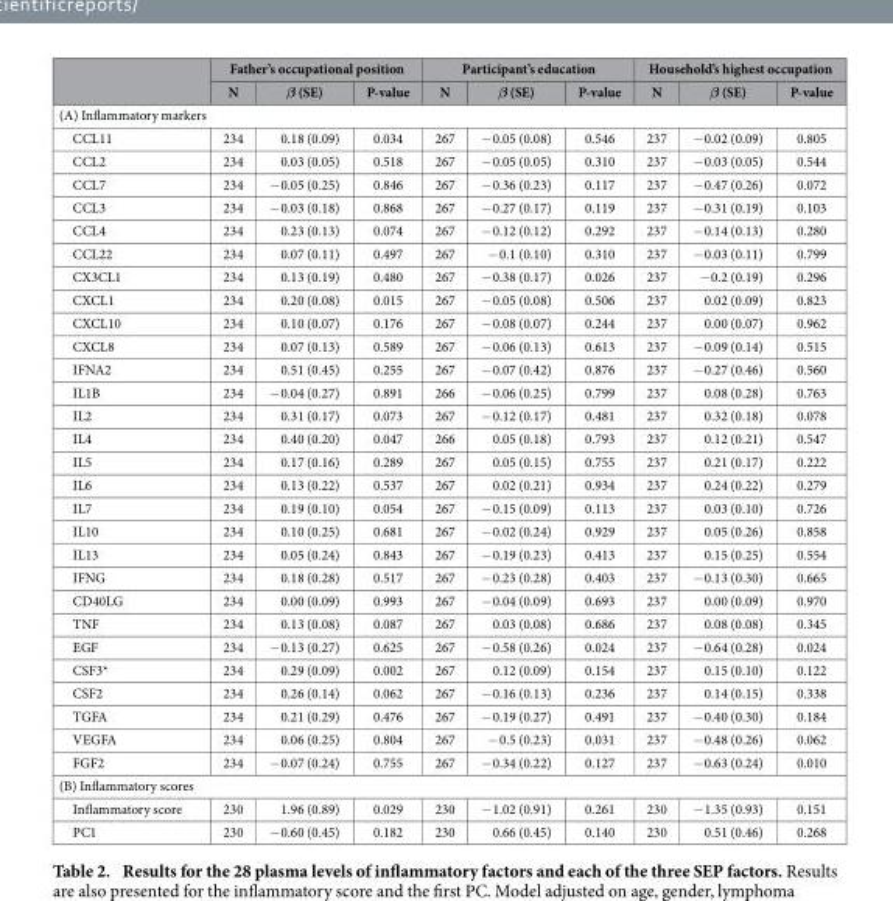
<table><thead><tr><td rowspan="2"></td><td colspan="3">Father’s occupational position</td><td colspan="3">Participant’s education</td><td colspan="3">Household’s highest occupation</td></tr><tr><td>N</td><td>β (SE)</td><td>P-value</td><td>N</td><td>β (SE)</td><td>P-value</td><td>N</td><td>β (SE)</td><td>P-value</td></tr></thead><tbody><tr><td colspan="10">(A) Inflammatory markers</td></tr><tr><td>CCL11</td><td>234</td><td>0.18 (0.09)</td><td>0.034</td><td>267</td><td>− 0.05 (0.08)</td><td>0.546</td><td>237</td><td>− 0.02 (0.09)</td><td>0.805</td></tr><tr><td>CCL2</td><td>234</td><td>0.03 (0.05)</td><td>0.518</td><td>267</td><td>− 0.05 (0.05)</td><td>0.310</td><td>237</td><td>− 0.03 (0.05)</td><td>0.544</td></tr><tr><td>CCL7</td><td>234</td><td>− 0.05 (0.25)</td><td>0.846</td><td>267</td><td>− 0.36 (0.23)</td><td>0.117</td><td>237</td><td>− 0.47 (0.26)</td><td>0.072</td></tr><tr><td>CCL3</td><td>234</td><td>− 0.03 (0.18)</td><td>0.868</td><td>267</td><td>− 0.27 (0.17)</td><td>0.119</td><td>237</td><td>− 0.31 (0.19)</td><td>0.103</td></tr><tr><td>CCL4</td><td>234</td><td>0.23 (0.13)</td><td>0.074</td><td>267</td><td>− 0.12 (0.12)</td><td>0.292</td><td>237</td><td>− 0.14 (0.13)</td><td>0.280</td></tr><tr><td>CCL22</td><td>234</td><td>0.07 (0.11)</td><td>0.497</td><td>267</td><td>− 0.1 (0.10)</td><td>0.310</td><td>237</td><td>− 0.03 (0.11)</td><td>0.799</td></tr><tr><td>CX3CL1</td><td>234</td><td>0.13 (0.19)</td><td>0.480</td><td>267</td><td>− 0.38 (0.17)</td><td>0.026</td><td>237</td><td>− 0.2 (0.19)</td><td>0.296</td></tr><tr><td>CXCL1</td><td>234</td><td>0.20 (0.08)</td><td>0.015</td><td>267</td><td>− 0.05 (0.08)</td><td>0.506</td><td>237</td><td>0.02 (0.09)</td><td>0.823</td></tr><tr><td>CXCL10</td><td>234</td><td>0.10 (0.07)</td><td>0.176</td><td>267</td><td>− 0.08 (0.07)</td><td>0.244</td><td>237</td><td>0.00 (0.07)</td><td>0.962</td></tr><tr><td>CXCL8</td><td>234</td><td>0.07 (0.13)</td><td>0.589</td><td>267</td><td>− 0.06 (0.13)</td><td>0.613</td><td>237</td><td>− 0.09 (0.14)</td><td>0.515</td></tr><tr><td>IFNA2</td><td>234</td><td>0.51 (0.45)</td><td>0.255</td><td>267</td><td>− 0.07 (0.42)</td><td>0.876</td><td>237</td><td>− 0.27 (0.46)</td><td>0.560</td></tr><tr><td>IL1B</td><td>234</td><td>− 0.04 (0.27)</td><td>0.891</td><td>266</td><td>− 0.06 (0.25)</td><td>0.799</td><td>237</td><td>0.08 (0.28)</td><td>0.763</td></tr><tr><td>IL2</td><td>234</td><td>0.31 (0.17)</td><td>0.073</td><td>267</td><td>− 0.12 (0.17)</td><td>0.481</td><td>237</td><td>0.32 (0.18)</td><td>0.078</td></tr><tr><td>IL4</td><td>234</td><td>0.40 (0.20)</td><td>0.047</td><td>266</td><td>0.05 (0.18)</td><td>0.793</td><td>237</td><td>0.12 (0.21)</td><td>0.547</td></tr><tr><td>IL5</td><td>234</td><td>0.17 (0.16)</td><td>0.289</td><td>267</td><td>0.05 (0.15)</td><td>0.755</td><td>237</td><td>0.21 (0.17)</td><td>0.222</td></tr><tr><td>IL6</td><td>234</td><td>0.13 (0.22)</td><td>0.537</td><td>267</td><td>0.02 (0.21)</td><td>0.934</td><td>237</td><td>0.24 (0.22)</td><td>0.279</td></tr><tr><td>IL7</td><td>234</td><td>0.19 (0.10)</td><td>0.054</td><td>267</td><td>− 0.15 (0.09)</td><td>0.113</td><td>237</td><td>0.03 (0.10)</td><td>0.726</td></tr><tr><td>IL10</td><td>234</td><td>0.10 (0.25)</td><td>0.681</td><td>267</td><td>− 0.02 (0.24)</td><td>0.929</td><td>237</td><td>0.05 (0.26)</td><td>0.858</td></tr><tr><td>IL13</td><td>234</td><td>0.05 (0.24)</td><td>0.843</td><td>267</td><td>− 0.19 (0.23)</td><td>0.413</td><td>237</td><td>0.15 (0.25)</td><td>0.554</td></tr><tr><td>IFNG</td><td>234</td><td>0.18 (0.28)</td><td>0.517</td><td>267</td><td>− 0.23 (0.28)</td><td>0.403</td><td>237</td><td>− 0.13 (0.30)</td><td>0.665</td></tr><tr><td>CD40LG</td><td>234</td><td>0.00 (0.09)</td><td>0.993</td><td>267</td><td>− 0.04 (0.09)</td><td>0.693</td><td>237</td><td>0.00 (0.09)</td><td>0.970</td></tr><tr><td>TNF</td><td>234</td><td>0.13 (0.08)</td><td>0.087</td><td>267</td><td>0.03 (0.08)</td><td>0.686</td><td>237</td><td>0.08 (0.08)</td><td>0.345</td></tr><tr><td>EGF</td><td>234</td><td>− 0.13 (0.27)</td><td>0.625</td><td>267</td><td>− 0.58 (0.26)</td><td>0.024</td><td>237</td><td>− 0.64 (0.28)</td><td>0.024</td></tr><tr><td>CSF3*</td><td>234</td><td>0.29 (0.09)</td><td>0.002</td><td>267</td><td>0.12 (0.09)</td><td>0.154</td><td>237</td><td>0.15 (0.10)</td><td>0.122</td></tr><tr><td>CSF2</td><td>234</td><td>0.26 (0.14)</td><td>0.062</td><td>267</td><td>− 0.16 (0.13)</td><td>0.236</td><td>237</td><td>0.14 (0.15)</td><td>0.338</td></tr><tr><td>TGFA</td><td>234</td><td>0.21 (0.29)</td><td>0.476</td><td>267</td><td>− 0.19 (0.27)</td><td>0.491</td><td>237</td><td>− 0.40 (0.30)</td><td>0.184</td></tr><tr><td>VEGFA</td><td>234</td><td>0.06 (0.25)</td><td>0.804</td><td>267</td><td>− 0.5 (0.23)</td><td>0.031</td><td>237</td><td>− 0.48 (0.26)</td><td>0.062</td></tr><tr><td>FGF2</td><td>234</td><td>− 0.07 (0.24)</td><td>0.755</td><td>267</td><td>− 0.34 (0.22)</td><td>0.127</td><td>237</td><td>− 0.63 (0.24)</td><td>0.010</td></tr><tr><td colspan="10">(B) Inflammatory scores</td></tr><tr><td>Inflammatory score</td><td>230</td><td>1.96 (0.89)</td><td>0.029</td><td>230</td><td>− 1.02 (0.91)</td><td>0.261</td><td>230</td><td>− 1.35 (0.93)</td><td>0.151</td></tr><tr><td>PC1</td><td>230</td><td>− 0.60 (0.45)</td><td>0.182</td><td>230</td><td>0.66 (0.45)</td><td>0.140</td><td>230</td><td>0.51 (0.46)</td><td>0.268</td></tr></tbody></table>